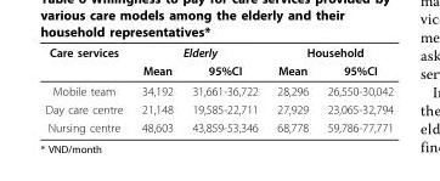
<table><thead><tr><td rowspan="2">Care services</td><td colspan="2">Elderly</td><td colspan="2">Household</td></tr><tr><td>Mean</td><td>95%CI</td><td>Mean</td><td>95%CI</td></tr></thead><tbody><tr><td>Mobile team</td><td>34,192</td><td>31,661-36,722</td><td>28,296</td><td>26,550-30,042</td></tr><tr><td>Day care centre</td><td>21,148</td><td>19,585-22,711</td><td>27,929</td><td>23,065-32,794</td></tr><tr><td>Nursing centre</td><td>48,603</td><td>43,859-53,346</td><td>68,778</td><td>59,786-77,771</td></tr></tbody></table>